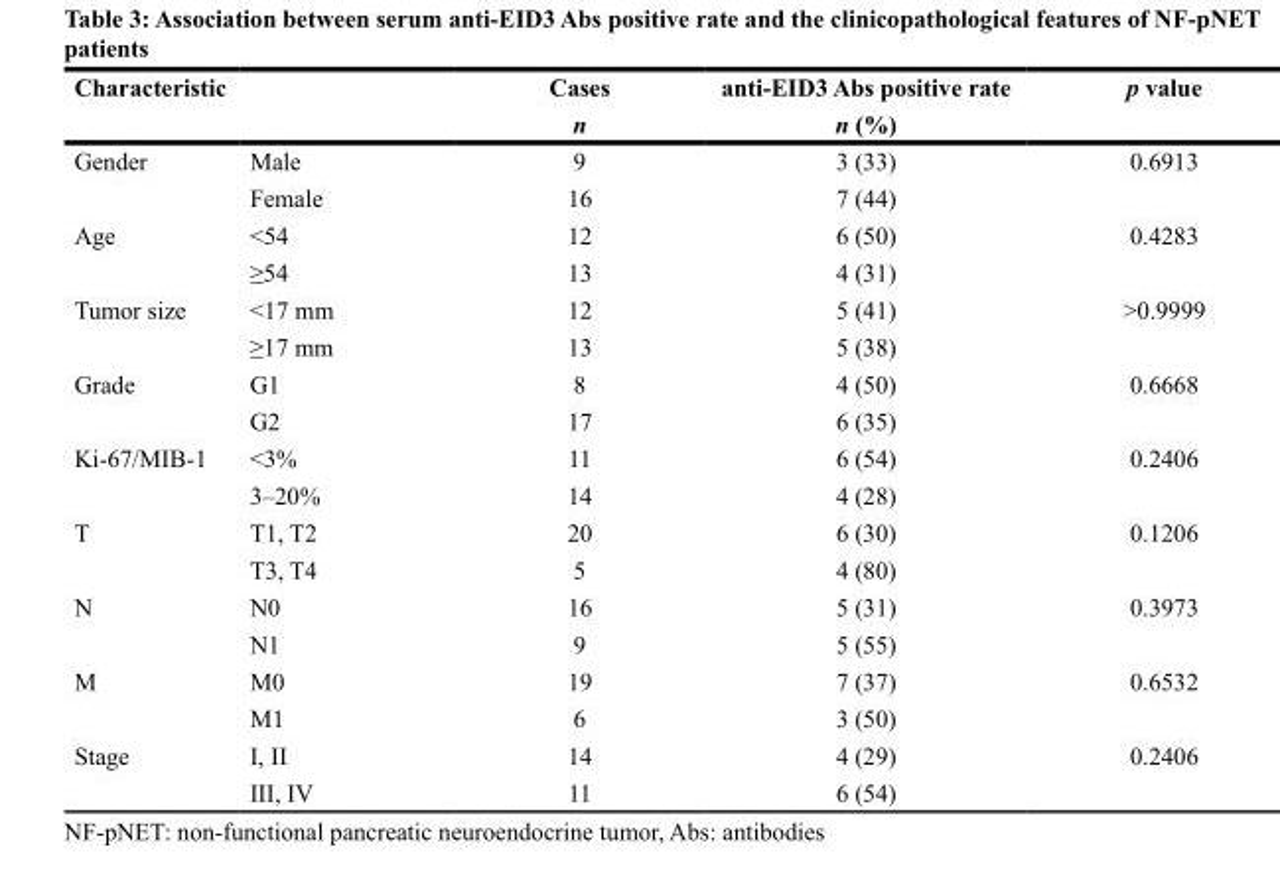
<table><thead><tr><td rowspan="2">Characteristic</td><td rowspan="2"></td><td rowspan="2">Cases n</td><td rowspan="2">anti-EID3 Abs positive rate n (%)</td><td rowspan="2">p value</td></tr><tr></tr></thead><tbody><tr><td rowspan="2">Gender</td><td>Male</td><td>9</td><td>3 (33)</td><td>0.6913</td></tr><tr><td>Female</td><td>16</td><td>7 (44)</td><td></td></tr><tr><td rowspan="2">Age</td><td>&lt;54</td><td>12</td><td>6 (50)</td><td>0.4283</td></tr><tr><td>≥54</td><td>13</td><td>4 (31)</td><td></td></tr><tr><td rowspan="2">Tumor size</td><td>&lt;17 mm</td><td>12</td><td>5 (41)</td><td>&gt;0.9999</td></tr><tr><td>≥17 mm</td><td>13</td><td>5 (38)</td><td></td></tr><tr><td rowspan="2">Grade</td><td>G1</td><td>8</td><td>4 (50)</td><td>0.6668</td></tr><tr><td>G2</td><td>17</td><td>6 (35)</td><td></td></tr><tr><td rowspan="2">Ki-67/MIB-1</td><td>&lt;3%</td><td>11</td><td>6 (54)</td><td>0.2406</td></tr><tr><td>3–20%</td><td>14</td><td>4 (28)</td><td></td></tr><tr><td rowspan="2">T</td><td>T1, T2</td><td>20</td><td>6 (30)</td><td>0.1206</td></tr><tr><td>T3, T4</td><td>5</td><td>4 (80)</td><td></td></tr><tr><td rowspan="2">N</td><td>N0</td><td>16</td><td>5 (31)</td><td>0.3973</td></tr><tr><td>N1</td><td>9</td><td>5 (55)</td><td></td></tr><tr><td rowspan="2">M</td><td>M0</td><td>19</td><td>7 (37)</td><td>0.6532</td></tr><tr><td>M1</td><td>6</td><td>3 (50)</td><td></td></tr><tr><td rowspan="2">Stage</td><td>I, II</td><td>14</td><td>4 (29)</td><td>0.2406</td></tr><tr><td>III, IV</td><td>11</td><td>6 (54)</td><td></td></tr></tbody></table>